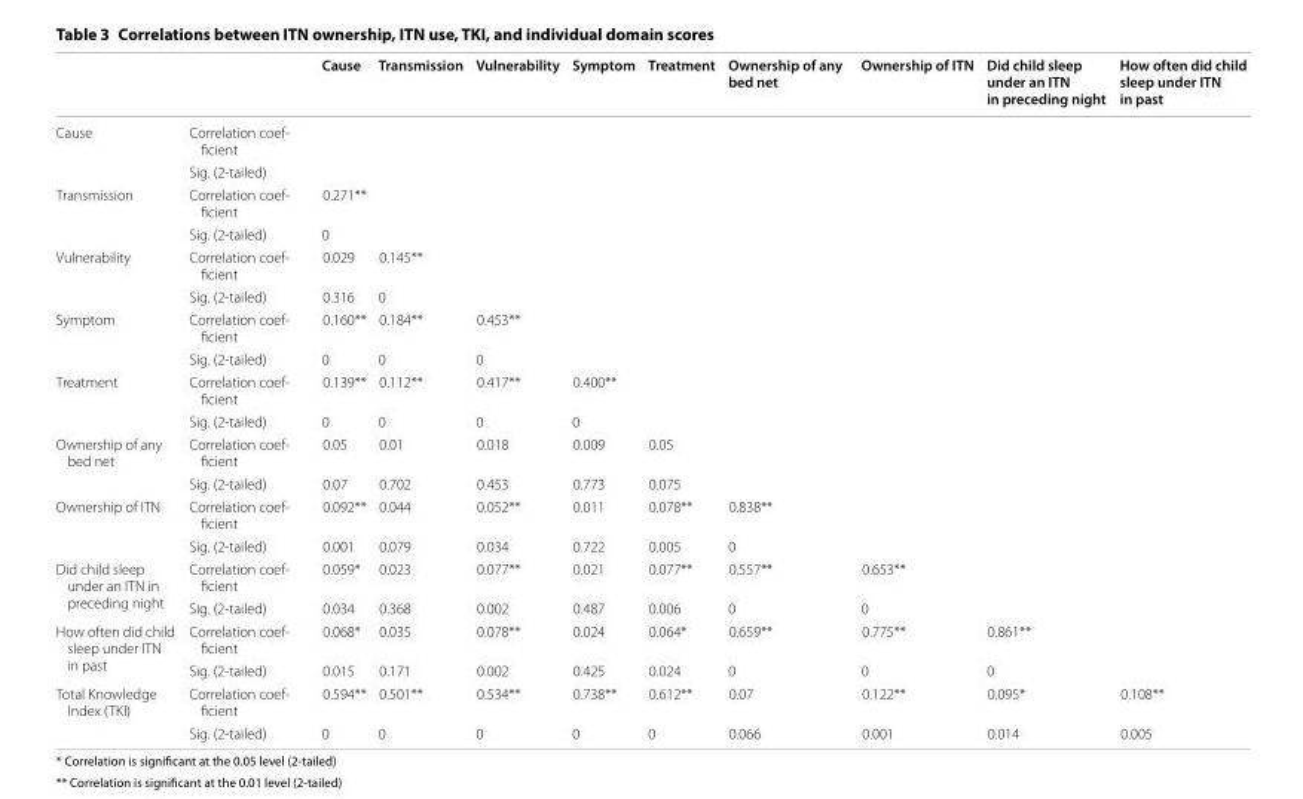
<table><thead><tr><td></td><td></td><td>Cause</td><td>Transmission</td><td>Vulnerability</td><td>Symptom</td><td>Treatment</td><td>Ownership of any bed net</td><td>Ownership of ITN</td><td>Did child sleep under an ITN in preceding night</td><td>How often did child sleep under ITN in past</td></tr></thead><tbody><tr><td rowspan="2">Cause</td><td>Correlation coef- ficient</td><td></td><td></td><td></td><td></td><td></td><td></td><td></td><td></td><td></td></tr><tr><td>Sig. (2-tailed)</td><td></td><td></td><td></td><td></td><td></td><td></td><td></td><td></td><td></td></tr><tr><td rowspan="2">Transmission</td><td>Correlation coef- ficient</td><td>0.271**</td><td></td><td></td><td></td><td></td><td></td><td></td><td></td><td></td></tr><tr><td>Sig. (2-tailed)</td><td>0</td><td></td><td></td><td></td><td></td><td></td><td></td><td></td><td></td></tr><tr><td rowspan="2">Vulnerability</td><td>Correlation coef- ficient</td><td>0.029</td><td>0.145**</td><td></td><td></td><td></td><td></td><td></td><td></td><td></td></tr><tr><td>Sig. (2-tailed)</td><td>0.316</td><td>0</td><td></td><td></td><td></td><td></td><td></td><td></td><td></td></tr><tr><td rowspan="2">Symptom</td><td>Correlation coef- ficient</td><td>0.160**</td><td>0.184**</td><td>0.453**</td><td></td><td></td><td></td><td></td><td></td><td></td></tr><tr><td>Sig. (2-tailed)</td><td>0</td><td>0</td><td>0</td><td></td><td></td><td></td><td></td><td></td><td></td></tr><tr><td rowspan="2">Treatment</td><td>Correlation coef- ficient</td><td>0.139**</td><td>0.112**</td><td>0.417**</td><td>0.400**</td><td></td><td></td><td></td><td></td><td></td></tr><tr><td>Sig. (2-tailed)</td><td>0</td><td>0</td><td>0</td><td>0</td><td></td><td></td><td></td><td></td><td></td></tr><tr><td rowspan="2">Ownership of any bed net</td><td>Correlation coef- ficient</td><td>0.05</td><td>0.01</td><td>0.018</td><td>0.009</td><td>0.05</td><td></td><td></td><td></td><td></td></tr><tr><td>Sig. (2-tailed)</td><td>0.07</td><td>0.702</td><td>0.453</td><td>0.773</td><td>0.075</td><td></td><td></td><td></td><td></td></tr><tr><td rowspan="2">Ownership of ITN</td><td>Correlation coef- ficient</td><td>0.092**</td><td>0.044</td><td>0.052**</td><td>0.011</td><td>0.078**</td><td>0.838**</td><td></td><td></td><td></td></tr><tr><td>Sig. (2-tailed)</td><td>0.001</td><td>0.079</td><td>0.034</td><td>0.722</td><td>0.005</td><td>0</td><td></td><td></td><td></td></tr><tr><td rowspan="2">Did child sleep under an ITN in preceding night</td><td>Correlation coef- ficient</td><td>0.059*</td><td>0.023</td><td>0.077**</td><td>0.021</td><td>0.077**</td><td>0.557**</td><td>0.653**</td><td></td><td></td></tr><tr><td>Sig. (2-tailed)</td><td>0.034</td><td>0.368</td><td>0.002</td><td>0.487</td><td>0.006</td><td>0</td><td>0</td><td></td><td></td></tr><tr><td rowspan="2">How often did child sleep under ITN in past</td><td>Correlation coef- ficient</td><td>0.068*</td><td>0.035</td><td>0.078**</td><td>0.024</td><td>0.064*</td><td>0.659**</td><td>0.775**</td><td>0.861**</td><td></td></tr><tr><td>Sig. (2-tailed)</td><td>0.015</td><td>0.171</td><td>0.002</td><td>0.425</td><td>0.024</td><td>0</td><td>0</td><td>0</td><td></td></tr><tr><td rowspan="2">Total Knowledge Index (TKI)</td><td>Correlation coef- ficient</td><td>0.594**</td><td>0.501**</td><td>0.534**</td><td>0.738**</td><td>0.612**</td><td>0.07</td><td>0.122**</td><td>0.095*</td><td>0.108**</td></tr><tr><td>Sig. (2-tailed)</td><td>0</td><td>0</td><td>0</td><td>0</td><td>0</td><td>0.066</td><td>0.001</td><td>0.014</td><td>0.005</td></tr></tbody></table>